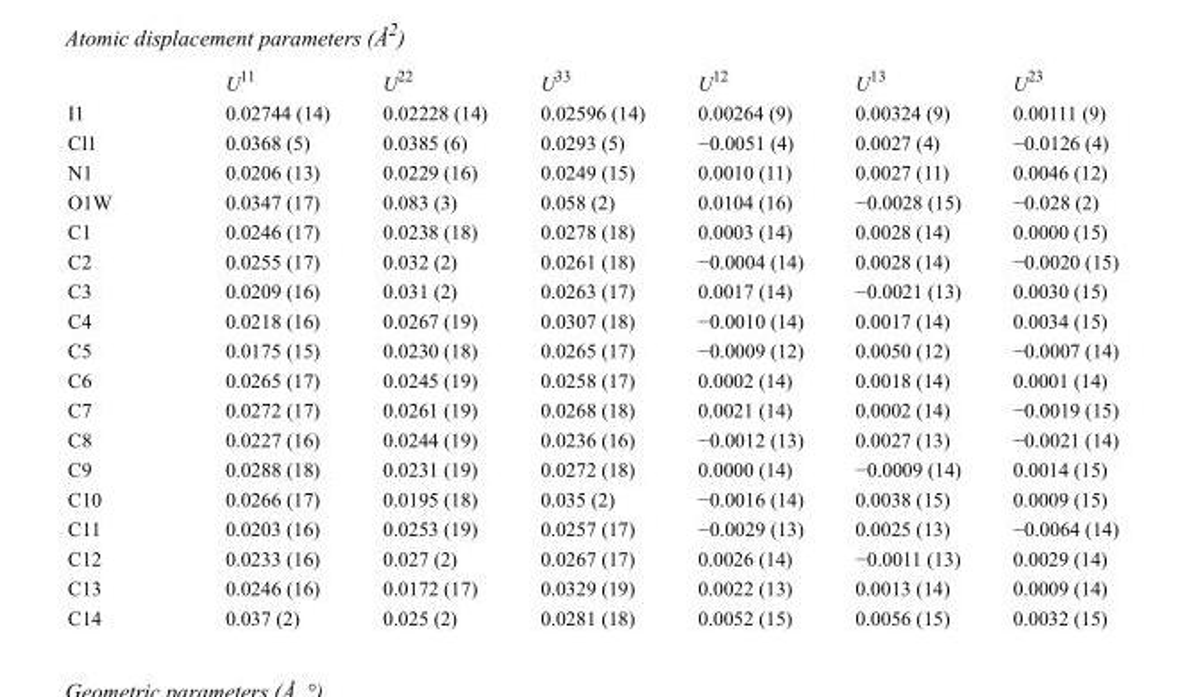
<table><thead><tr><td></td><td>U<sup>11</sup></td><td>U<sup>22</sup></td><td>U<sup>33</sup></td><td>U<sup>12</sup></td><td>U<sup>13</sup></td><td>U<sup>23</sup></td></tr></thead><tbody><tr><td>I1</td><td>0.02744 (14)</td><td>0.02228 (14)</td><td>0.02596 (14)</td><td>0.00264 (9)</td><td>0.00324 (9)</td><td>0.00111 (9)</td></tr><tr><td>Cl1</td><td>0.0368 (5)</td><td>0.0385 (6)</td><td>0.0293 (5)</td><td>−0.0051 (4)</td><td>0.0027 (4)</td><td>−0.0126 (4)</td></tr><tr><td>N1</td><td>0.0206 (13)</td><td>0.0229 (16)</td><td>0.0249 (15)</td><td>0.0010 (11)</td><td>0.0027 (11)</td><td>0.0046 (12)</td></tr><tr><td>O1W</td><td>0.0347 (17)</td><td>0.083 (3)</td><td>0.058 (2)</td><td>0.0104 (16)</td><td>−0.0028 (15)</td><td>−0.028 (2)</td></tr><tr><td>C1</td><td>0.0246 (17)</td><td>0.0238 (18)</td><td>0.0278 (18)</td><td>0.0003 (14)</td><td>0.0028 (14)</td><td>0.0000 (15)</td></tr><tr><td>C2</td><td>0.0255 (17)</td><td>0.032 (2)</td><td>0.0261 (18)</td><td>−0.0004 (14)</td><td>0.0028 (14)</td><td>−0.0020 (15)</td></tr><tr><td>C3</td><td>0.0209 (16)</td><td>0.031 (2)</td><td>0.0263 (17)</td><td>0.0017 (14)</td><td>−0.0021 (13)</td><td>0.0030 (15)</td></tr><tr><td>C4</td><td>0.0218 (16)</td><td>0.0267 (19)</td><td>0.0307 (18)</td><td>−0.0010 (14)</td><td>0.0017 (14)</td><td>0.0034 (15)</td></tr><tr><td>C5</td><td>0.0175 (15)</td><td>0.0230 (18)</td><td>0.0265 (17)</td><td>−0.0009 (12)</td><td>0.0050 (12)</td><td>−0.0007 (14)</td></tr><tr><td>C6</td><td>0.0265 (17)</td><td>0.0245 (19)</td><td>0.0258 (17)</td><td>0.0002 (14)</td><td>0.0018 (14)</td><td>0.0001 (14)</td></tr><tr><td>C7</td><td>0.0272 (17)</td><td>0.0261 (19)</td><td>0.0268 (18)</td><td>0.0021 (14)</td><td>0.0002 (14)</td><td>−0.0019 (15)</td></tr><tr><td>C8</td><td>0.0227 (16)</td><td>0.0244 (19)</td><td>0.0236 (16)</td><td>−0.0012 (13)</td><td>0.0027 (13)</td><td>−0.0021 (14)</td></tr><tr><td>C9</td><td>0.0288 (18)</td><td>0.0231 (19)</td><td>0.0272 (18)</td><td>0.0000 (14)</td><td>−0.0009 (14)</td><td>0.0014 (15)</td></tr><tr><td>C10</td><td>0.0266 (17)</td><td>0.0195 (18)</td><td>0.035 (2)</td><td>−0.0016 (14)</td><td>0.0038 (15)</td><td>0.0009 (15)</td></tr><tr><td>C11</td><td>0.0203 (16)</td><td>0.0253 (19)</td><td>0.0257 (17)</td><td>−0.0029 (13)</td><td>0.0025 (13)</td><td>−0.0064 (14)</td></tr><tr><td>C12</td><td>0.0233 (16)</td><td>0.027 (2)</td><td>0.0267 (17)</td><td>0.0026 (14)</td><td>−0.0011 (13)</td><td>0.0029 (14)</td></tr><tr><td>C13</td><td>0.0246 (16)</td><td>0.0172 (17)</td><td>0.0329 (19)</td><td>0.0022 (13)</td><td>0.0013 (14)</td><td>0.0009 (14)</td></tr><tr><td>C14</td><td>0.037 (2)</td><td>0.025 (2)</td><td>0.0281 (18)</td><td>0.0052 (15)</td><td>0.0056 (15)</td><td>0.0032 (15)</td></tr></tbody></table>